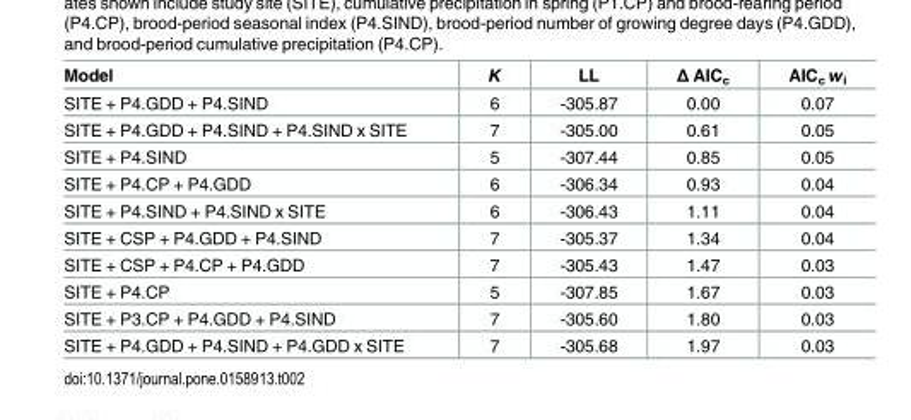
<table><thead><tr><td>Model</td><td>K</td><td>LL</td><td>Δ AIC<sub>c</sub></td><td>AIC<sub>c</sub> w<sub>i</sub></td></tr></thead><tbody><tr><td>SITE + P4.GDD + P4.SIND</td><td>6</td><td>-305.87</td><td>0.00</td><td>0.07</td></tr><tr><td>SITE + P4.GDD + P4.SIND + P4.SIND x SITE</td><td>7</td><td>-305.00</td><td>0.61</td><td>0.05</td></tr><tr><td>SITE + P4.SIND</td><td>5</td><td>-307.44</td><td>0.85</td><td>0.05</td></tr><tr><td>SITE + P4.CP + P4.GDD</td><td>6</td><td>-306.34</td><td>0.93</td><td>0.04</td></tr><tr><td>SITE + P4.SIND + P4.SIND x SITE</td><td>6</td><td>-306.43</td><td>1.11</td><td>0.04</td></tr><tr><td>SITE + CSP + P4.GDD + P4.SIND</td><td>7</td><td>-305.37</td><td>1.34</td><td>0.04</td></tr><tr><td>SITE + CSP + P4.CP + P4.GDD</td><td>7</td><td>-305.43</td><td>1.47</td><td>0.03</td></tr><tr><td>SITE + P4.CP</td><td>5</td><td>-307.85</td><td>1.67</td><td>0.03</td></tr><tr><td>SITE + P3.CP + P4.GDD + P4.SIND</td><td>7</td><td>-305.60</td><td>1.80</td><td>0.03</td></tr><tr><td>SITE + P4.GDD + P4.SIND + P4.GDD x SITE</td><td>7</td><td>-305.68</td><td>1.97</td><td>0.03</td></tr></tbody></table>